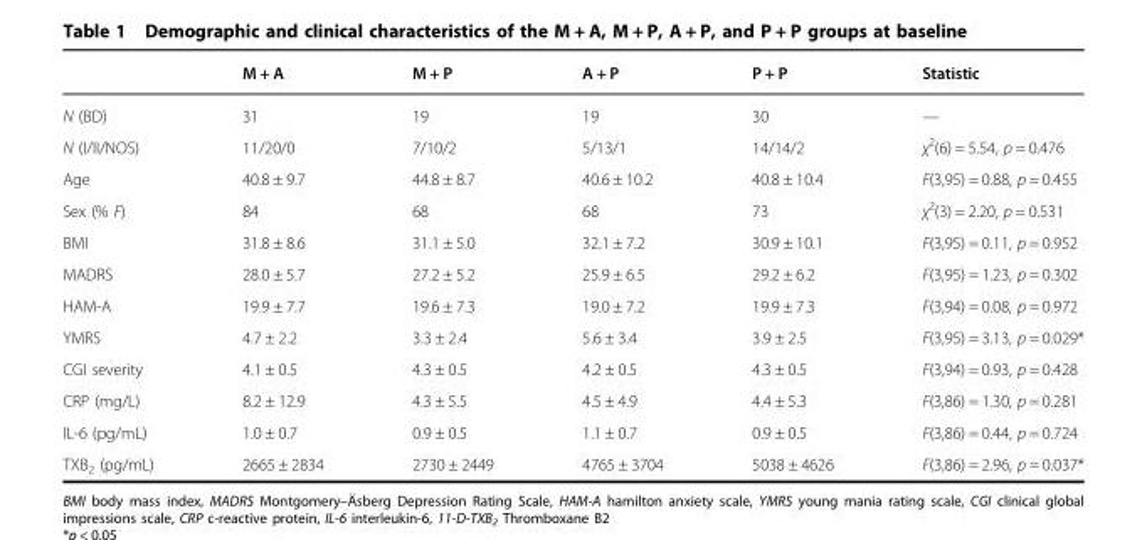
<table><thead><tr><td></td><td>M + A</td><td>M + P</td><td>A + P</td><td>P + P</td><td>Statistic</td></tr></thead><tbody><tr><td>N (BD)</td><td>31</td><td>19</td><td>19</td><td>30</td><td>—</td></tr><tr><td>N (I/II/NOS)</td><td>11/20/0</td><td>7/10/2</td><td>5/13/1</td><td>14/14/2</td><td>χ<sup>2</sup>(6) = 5.54, p = 0.476</td></tr><tr><td>Age</td><td>40.8 ± 9.7</td><td>44.8 ± 8.7</td><td>40.6 ± 10.2</td><td>40.8 ± 10.4</td><td>F(3,95) = 0.88, p = 0.455</td></tr><tr><td>Sex (% F)</td><td>84</td><td>68</td><td>68</td><td>73</td><td>χ<sup>2</sup>(3) = 2.20, p = 0.531</td></tr><tr><td>BMI</td><td>31.8 ± 8.6</td><td>31.1 ± 5.0</td><td>32.1 ± 7.2</td><td>30.9 ± 10.1</td><td>F(3,95) = 0.11, p = 0.952</td></tr><tr><td>MADRS</td><td>28.0 ± 5.7</td><td>27.2 ± 5.2</td><td>25.9 ± 6.5</td><td>29.2 ± 6.2</td><td>F(3,95) = 1.23, p = 0.302</td></tr><tr><td>HAM-A</td><td>19.9 ± 7.7</td><td>19.6 ± 7.3</td><td>19.0 ± 7.2</td><td>19.9 ± 7.3</td><td>F(3,94) = 0.08, p = 0.972</td></tr><tr><td>YMRS</td><td>4.7 ± 2.2</td><td>3.3 ± 2.4</td><td>5.6 ± 3.4</td><td>3.9 ± 2.5</td><td>F(3,95) = 3.13, p = 0.029*</td></tr><tr><td>CGI severity</td><td>4.1 ± 0.5</td><td>4.3 ± 0.5</td><td>4.2 ± 0.5</td><td>4.3 ± 0.5</td><td>F(3,94) = 0.93, p = 0.428</td></tr><tr><td>CRP (mg/L)</td><td>8.2 ± 12.9</td><td>4.3 ± 5.5</td><td>4.5 ± 4.9</td><td>4.4 ± 5.3</td><td>F(3,86) = 1.30, p = 0.281</td></tr><tr><td>IL-6 (pg/mL)</td><td>1.0 ± 0.7</td><td>0.9 ± 0.5</td><td>1.1 ± 0.7</td><td>0.9 ± 0.5</td><td>F(3,86) = 0.44, p = 0.724</td></tr><tr><td>TXB<sub>2</sub> (pg/mL)</td><td>2665 ± 2834</td><td>2730 ± 2449</td><td>4765 ± 3704</td><td>5038 ± 4626</td><td>F(3,86) = 2.96, p = 0.037*</td></tr></tbody></table>